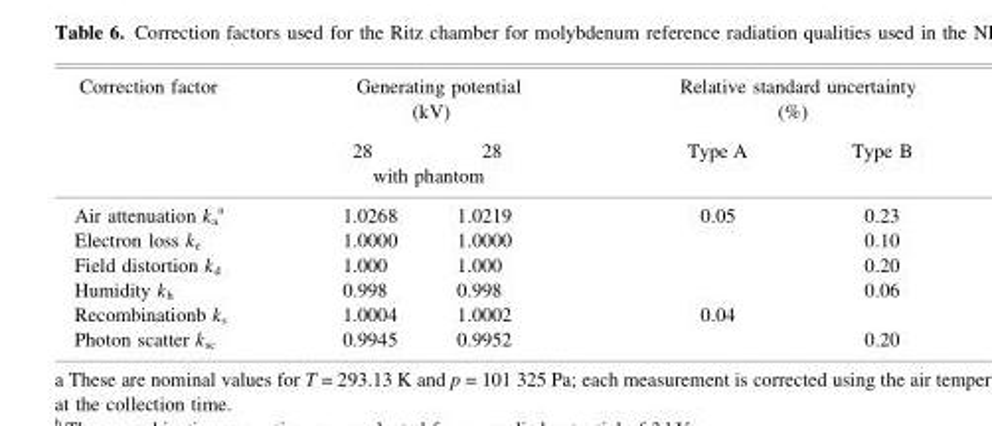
<table><thead><tr><td rowspan="3">Correction factor</td><td colspan="2">Generating potential (kV)</td><td colspan="2">Relative standard uncertainty (%)</td></tr><tr><td>28</td><td>28</td><td rowspan="2">Type A</td><td rowspan="2">Type B</td></tr><tr><td colspan="2">with phantom</td></tr></thead><tbody><tr><td>Air attenuation k<sub>a</sub> <sup>a</sup></td><td>1.0268</td><td>1.0219</td><td>0.05</td><td>0.23</td></tr><tr><td>Electron loss k<sub>e</sub></td><td>1.0000</td><td>1.0000</td><td></td><td>0.10</td></tr><tr><td>Field distortion k<sub>d</sub></td><td>1.000</td><td>1.000</td><td></td><td>0.20</td></tr><tr><td>Humidity k<sub>h</sub></td><td>0.998</td><td>0.998</td><td></td><td>0.06</td></tr><tr><td>Recombinationb k<sub>s</sub></td><td>1.0004</td><td>1.0002</td><td>0.04</td><td></td></tr><tr><td>Photon scatter k<sub>sc</sub></td><td>0.9945</td><td>0.9952</td><td></td><td>0.20</td></tr></tbody></table>